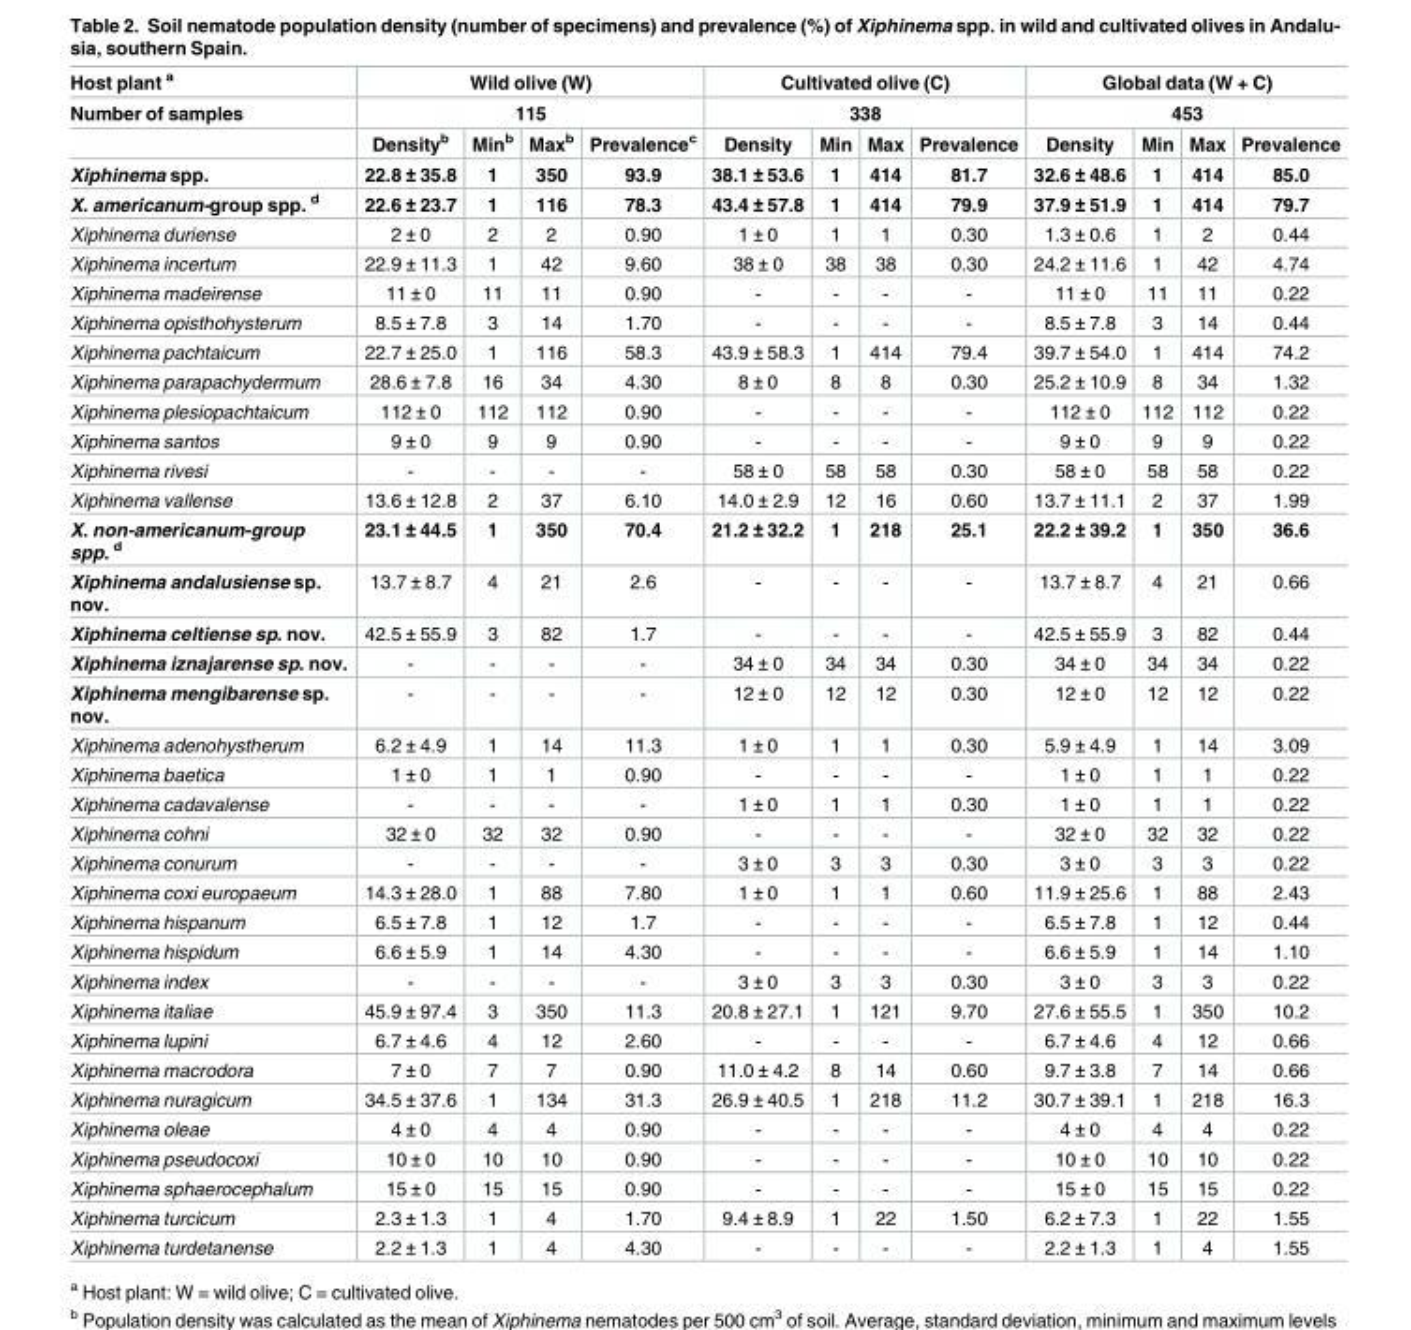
<table><thead><tr><td rowspan="3">Host plant <sup>a</sup> Number of samples</td><td rowspan="2" colspan="4">Wild olive (W) 115</td><td rowspan="2" colspan="4">Cultivated olive (C) 338</td><td rowspan="2" colspan="4">Global data (W + C) 453</td></tr><tr></tr><tr><td>Density<sup>b</sup></td><td>Min<sup>b</sup></td><td>Max<sup>b</sup></td><td>Prevalence<sup>c</sup></td><td>Density</td><td>Min</td><td>Max</td><td>Prevalence</td><td>Density</td><td>Min</td><td>Max</td><td>Prevalence</td></tr></thead><tbody><tr><td>Xiphinema spp.</td><td>22.8 ± 35.8</td><td>1</td><td>350</td><td>93.9</td><td>38.1 ± 53.6</td><td>1</td><td>414</td><td>81.7</td><td>32.6 ± 48.6</td><td>1</td><td>414</td><td>85.0</td></tr><tr><td>X. americanum-group spp. <sup>d</sup></td><td>22.6 ± 23.7</td><td>1</td><td>116</td><td>78.3</td><td>43.4 ± 57.8</td><td>1</td><td>414</td><td>79.9</td><td>37.9 ± 51.9</td><td>1</td><td>414</td><td>79.7</td></tr><tr><td>Xiphinema duriense</td><td>2 ± 0</td><td>2</td><td>2</td><td>0.90</td><td>1 ± 0</td><td>1</td><td>1</td><td>0.30</td><td>1.3 ± 0.6</td><td>1</td><td>2</td><td>0.44</td></tr><tr><td>Xiphinema incertum</td><td>22.9 ± 11.3</td><td>1</td><td>42</td><td>9.60</td><td>38 ± 0</td><td>38</td><td>38</td><td>0.30</td><td>24.2 ± 11.6</td><td>1</td><td>42</td><td>4.74</td></tr><tr><td>Xiphinema madeirense</td><td>11 ± 0</td><td>11</td><td>11</td><td>0.90</td><td>-</td><td>-</td><td>-</td><td>-</td><td>11 ± 0</td><td>11</td><td>11</td><td>0.22</td></tr><tr><td>Xiphinema opisthohysterum</td><td>8.5 ± 7.8</td><td>3</td><td>14</td><td>1.70</td><td>-</td><td>-</td><td>-</td><td>-</td><td>8.5 ± 7.8</td><td>3</td><td>14</td><td>0.44</td></tr><tr><td>Xiphinema pachtaicum</td><td>22.7 ± 25.0</td><td>1</td><td>116</td><td>58.3</td><td>43.9 ± 58.3</td><td>1</td><td>414</td><td>79.4</td><td>39.7 ± 54.0</td><td>1</td><td>414</td><td>74.2</td></tr><tr><td>Xiphinema parapachydermum</td><td>28.6 ± 7.8</td><td>16</td><td>34</td><td>4.30</td><td>8 ± 0</td><td>8</td><td>8</td><td>0.30</td><td>25.2 ± 10.9</td><td>8</td><td>34</td><td>1.32</td></tr><tr><td>Xiphinema plesiopachtaicum</td><td>112 ± 0</td><td>112</td><td>112</td><td>0.90</td><td>-</td><td>-</td><td>-</td><td>-</td><td>112 ± 0</td><td>112</td><td>112</td><td>0.22</td></tr><tr><td>Xiphinema santos</td><td>9 ± 0</td><td>9</td><td>9</td><td>0.90</td><td>-</td><td>-</td><td>-</td><td>-</td><td>9 ± 0</td><td>9</td><td>9</td><td>0.22</td></tr><tr><td>Xiphinema rivesi</td><td>-</td><td>-</td><td>-</td><td>-</td><td>58 ± 0</td><td>58</td><td>58</td><td>0.30</td><td>58 ± 0</td><td>58</td><td>58</td><td>0.22</td></tr><tr><td>Xiphinema vallense</td><td>13.6 ± 12.8</td><td>2</td><td>37</td><td>6.10</td><td>14.0 ± 2.9</td><td>12</td><td>16</td><td>0.60</td><td>13.7 ± 11.1</td><td>2</td><td>37</td><td>1.99</td></tr><tr><td>X. non-americanum-group spp. <sup>d</sup></td><td>23.1 ± 44.5</td><td>1</td><td>350</td><td>70.4</td><td>21.2 ± 32.2</td><td>1</td><td>218</td><td>25.1</td><td>22.2 ± 39.2</td><td>1</td><td>350</td><td>36.6</td></tr><tr><td>Xiphinema andalusiense sp. nov.</td><td>13.7 ± 8.7</td><td>4</td><td>21</td><td>2.6</td><td>-</td><td>-</td><td>-</td><td>-</td><td>13.7 ± 8.7</td><td>4</td><td>21</td><td>0.66</td></tr><tr><td>Xiphinema celtiense sp. nov.</td><td>42.5 ± 55.9</td><td>3</td><td>82</td><td>1.7</td><td>-</td><td>-</td><td>-</td><td>-</td><td>42.5 ± 55.9</td><td>3</td><td>82</td><td>0.44</td></tr><tr><td>Xiphinema iznajarense sp. nov.</td><td>-</td><td>-</td><td>-</td><td>-</td><td>34 ± 0</td><td>34</td><td>34</td><td>0.30</td><td>34 ± 0</td><td>34</td><td>34</td><td>0.22</td></tr><tr><td>Xiphinema mengibarense sp. nov.</td><td>-</td><td>-</td><td>-</td><td>-</td><td>12 ± 0</td><td>12</td><td>12</td><td>0.30</td><td>12 ± 0</td><td>12</td><td>12</td><td>0.22</td></tr><tr><td>Xiphinema adenohystherum</td><td>6.2 ± 4.9</td><td>1</td><td>14</td><td>11.3</td><td>1 ± 0</td><td>1</td><td>1</td><td>0.30</td><td>5.9 ± 4.9</td><td>1</td><td>14</td><td>3.09</td></tr><tr><td>Xiphinema baetica</td><td>1 ± 0</td><td>1</td><td>1</td><td>0.90</td><td>-</td><td>-</td><td>-</td><td>-</td><td>1 ± 0</td><td>1</td><td>1</td><td>0.22</td></tr><tr><td>Xiphinema cadavalense</td><td>-</td><td>-</td><td>-</td><td>-</td><td>1 ± 0</td><td>1</td><td>1</td><td>0.30</td><td>1 ± 0</td><td>1</td><td>1</td><td>0.22</td></tr><tr><td>Xiphinema cohni</td><td>32 ± 0</td><td>32</td><td>32</td><td>0.90</td><td>-</td><td>-</td><td>-</td><td>-</td><td>32 ± 0</td><td>32</td><td>32</td><td>0.22</td></tr><tr><td>Xiphinema conurum</td><td>-</td><td>-</td><td>-</td><td>-</td><td>3 ± 0</td><td>3</td><td>3</td><td>0.30</td><td>3 ± 0</td><td>3</td><td>3</td><td>0.22</td></tr><tr><td>Xiphinema coxi europaeum</td><td>14.3 ± 28.0</td><td>1</td><td>88</td><td>7.80</td><td>1 ± 0</td><td>1</td><td>1</td><td>0.60</td><td>11.9 ± 25.6</td><td>1</td><td>88</td><td>2.43</td></tr><tr><td>Xiphinema hispanum</td><td>6.5 ± 7.8</td><td>1</td><td>12</td><td>1.7</td><td>-</td><td>-</td><td>-</td><td>-</td><td>6.5 ± 7.8</td><td>1</td><td>12</td><td>0.44</td></tr><tr><td>Xiphinema hispidum</td><td>6.6 ± 5.9</td><td>1</td><td>14</td><td>4.30</td><td>-</td><td>-</td><td>-</td><td>-</td><td>6.6 ± 5.9</td><td>1</td><td>14</td><td>1.10</td></tr><tr><td>Xiphinema index</td><td>-</td><td>-</td><td>-</td><td>-</td><td>3 ± 0</td><td>3</td><td>3</td><td>0.30</td><td>3 ± 0</td><td>3</td><td>3</td><td>0.22</td></tr><tr><td>Xiphinema italiae</td><td>45.9 ± 97.4</td><td>3</td><td>350</td><td>11.3</td><td>20.8 ± 27.1</td><td>1</td><td>121</td><td>9.70</td><td>27.6 ± 55.5</td><td>1</td><td>350</td><td>10.2</td></tr><tr><td>Xiphinema lupini</td><td>6.7 ± 4.6</td><td>4</td><td>12</td><td>2.60</td><td>-</td><td>-</td><td>-</td><td>-</td><td>6.7 ± 4.6</td><td>4</td><td>12</td><td>0.66</td></tr><tr><td>Xiphinema macrodora</td><td>7 ± 0</td><td>7</td><td>7</td><td>0.90</td><td>11.0 ± 4.2</td><td>8</td><td>14</td><td>0.60</td><td>9.7 ± 3.8</td><td>7</td><td>14</td><td>0.66</td></tr><tr><td>Xiphinema nuragicum</td><td>34.5 ± 37.6</td><td>1</td><td>134</td><td>31.3</td><td>26.9 ± 40.5</td><td>1</td><td>218</td><td>11.2</td><td>30.7 ± 39.1</td><td>1</td><td>218</td><td>16.3</td></tr><tr><td>Xiphinema oleae</td><td>4 ± 0</td><td>4</td><td>4</td><td>0.90</td><td>-</td><td>-</td><td>-</td><td>-</td><td>4 ± 0</td><td>4</td><td>4</td><td>0.22</td></tr><tr><td>Xiphinema pseudocoxi</td><td>10 ± 0</td><td>10</td><td>10</td><td>0.90</td><td>-</td><td>-</td><td>-</td><td>-</td><td>10 ± 0</td><td>10</td><td>10</td><td>0.22</td></tr><tr><td>Xiphinema sphaerocephalum</td><td>15 ± 0</td><td>15</td><td>15</td><td>0.90</td><td>-</td><td>-</td><td>-</td><td>-</td><td>15 ± 0</td><td>15</td><td>15</td><td>0.22</td></tr><tr><td>Xiphinema turcicum</td><td>2.3 ± 1.3</td><td>1</td><td>4</td><td>1.70</td><td>9.4 ± 8.9</td><td>1</td><td>22</td><td>1.50</td><td>6.2 ± 7.3</td><td>1</td><td>22</td><td>1.55</td></tr><tr><td>Xiphinema turdetanense</td><td>2.2 ± 1.3</td><td>1</td><td>4</td><td>4.30</td><td>-</td><td>-</td><td>-</td><td>-</td><td>2.2 ± 1.3</td><td>1</td><td>4</td><td>1.55</td></tr></tbody></table>